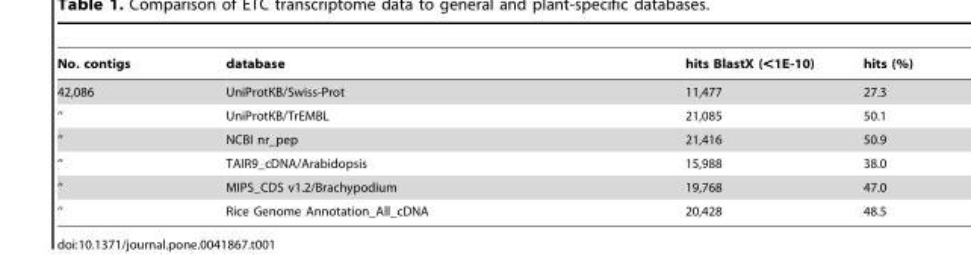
<table><thead><tr><td>No. contigs</td><td>database</td><td>hits BlastX (&lt;1E-10)</td><td>hits (%)</td></tr></thead><tbody><tr><td>42,086</td><td>UniProtKB/Swiss-Prot</td><td>11,477</td><td>27.3</td></tr><tr><td>‘‘</td><td>UniProtKB/TrEMBL</td><td>21,085</td><td>50.1</td></tr><tr><td>‘‘</td><td>NCBI nr_pep</td><td>21,416</td><td>50.9</td></tr><tr><td>‘‘</td><td>TAIR9_cDNA/Arabidopsis</td><td>15,988</td><td>38.0</td></tr><tr><td>‘‘</td><td>MIPS_CDS v1.2/Brachypodium</td><td>19,768</td><td>47.0</td></tr><tr><td>‘‘</td><td>Rice Genome Annotation_All_cDNA</td><td>20,428</td><td>48.5</td></tr></tbody></table>